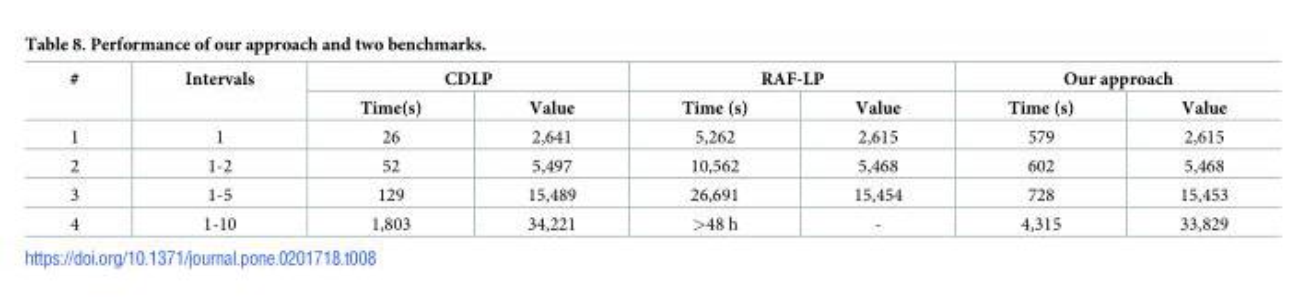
<table><thead><tr><td rowspan="2">#</td><td rowspan="2">Intervals</td><td colspan="2">CDLP</td><td colspan="2">RAF-LP</td><td colspan="2">Our approach</td></tr><tr><td>Time(s)</td><td>Value</td><td>Time (s)</td><td>Value</td><td>Time (s)</td><td>Value</td></tr></thead><tbody><tr><td>1</td><td>1</td><td>26</td><td>2,641</td><td>5,262</td><td>2,615</td><td>579</td><td>2,615</td></tr><tr><td>2</td><td>1-2</td><td>52</td><td>5,497</td><td>10,562</td><td>5,468</td><td>602</td><td>5,468</td></tr><tr><td>3</td><td>1-5</td><td>129</td><td>15,489</td><td>26,691</td><td>15,454</td><td>728</td><td>15,453</td></tr><tr><td>4</td><td>1-10</td><td>1,803</td><td>34,221</td><td>&gt;48 h</td><td>-</td><td>4,315</td><td>33,829</td></tr></tbody></table>